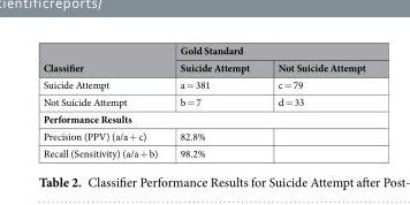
<table><thead><tr><td rowspan="2">Classifier</td><td colspan="2">Gold Standard</td></tr><tr><td>Suicide Attempt</td><td>Not Suicide Attempt</td></tr></thead><tbody><tr><td>Suicide Attempt</td><td>a = 381</td><td>c = 79</td></tr><tr><td>Not Suicide Attempt</td><td>b = 7</td><td>d = 33</td></tr><tr><td colspan="3">Performance Results</td></tr><tr><td>Precision (PPV) (a/a + c)</td><td>82.8%</td><td></td></tr><tr><td>Recall (Sensitivity) (a/a + b)</td><td>98.2%</td><td></td></tr></tbody></table>